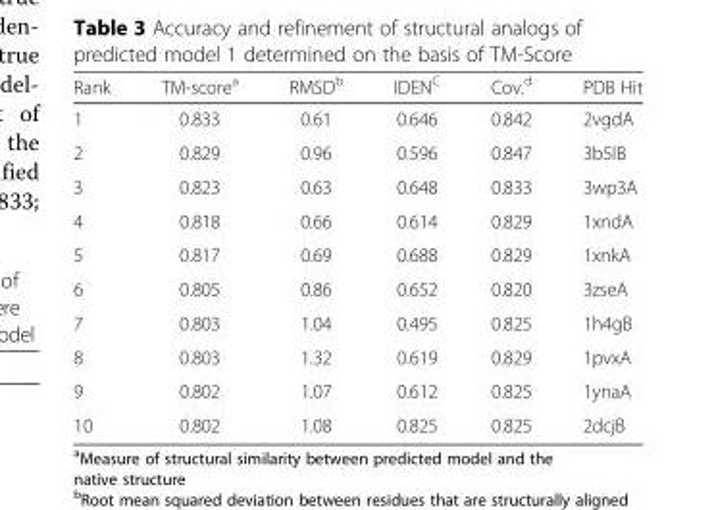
<table><thead><tr><td>Rank</td><td>TM-score<sup>a</sup></td><td>RMSD<sup>b</sup></td><td>IDEN<sup>C</sup></td><td>Cov.<sup>d</sup></td><td>PDB Hit</td></tr></thead><tbody><tr><td>1</td><td>0.833</td><td>0.61</td><td>0.646</td><td>0.842</td><td>2vgdA</td></tr><tr><td>2</td><td>0.829</td><td>0.96</td><td>0.596</td><td>0.847</td><td>3b5lB</td></tr><tr><td>3</td><td>0.823</td><td>0.63</td><td>0.648</td><td>0.833</td><td>3wp3A</td></tr><tr><td>4</td><td>0.818</td><td>0.66</td><td>0.614</td><td>0.829</td><td>1xndA</td></tr><tr><td>5</td><td>0.817</td><td>0.69</td><td>0.688</td><td>0.829</td><td>1xnkA</td></tr><tr><td>6</td><td>0.805</td><td>0.86</td><td>0.652</td><td>0.820</td><td>3zseA</td></tr><tr><td>7</td><td>0.803</td><td>1.04</td><td>0.495</td><td>0.825</td><td>1h4gB</td></tr><tr><td>8</td><td>0.803</td><td>1.32</td><td>0.619</td><td>0.829</td><td>1pvxA</td></tr><tr><td>9</td><td>0.802</td><td>1.07</td><td>0.612</td><td>0.825</td><td>1ynaA</td></tr><tr><td>10</td><td>0.802</td><td>1.08</td><td>0.825</td><td>0.825</td><td>2dcjB</td></tr></tbody></table>